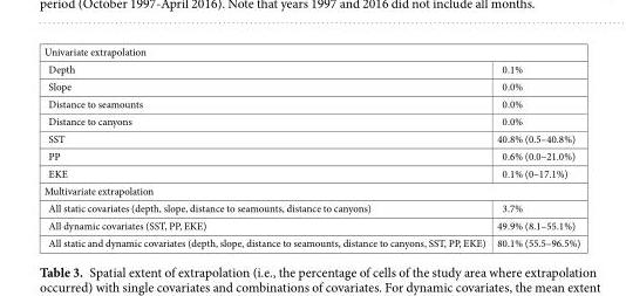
<table><tbody><tr><td colspan="2">Univariate extrapolation</td></tr><tr><td>Depth</td><td>0.1%</td></tr><tr><td>Slope</td><td>0.0%</td></tr><tr><td>Distance to seamounts</td><td>0.0%</td></tr><tr><td>Distance to canyons</td><td>0.0%</td></tr><tr><td>SST</td><td>40.8% (0.5–40.8%)</td></tr><tr><td>PP</td><td>0.6% (0.0–21.0%)</td></tr><tr><td>EKE</td><td>0.1% (0–17.1%)</td></tr><tr><td colspan="2">Multivariate extrapolation</td></tr><tr><td>All static covariates (depth, slope, distance to seamounts, distance to canyons)</td><td>3.7%</td></tr><tr><td>All dynamic covariates (SST, PP, EKE)</td><td>49.9% (8.1–55.1%)</td></tr><tr><td>All static and dynamic covariates (depth, slope, distance to seamounts, distance to canyons, SST, PP, EKE)</td><td>80.1% (55.5–96.5%)</td></tr></tbody></table>